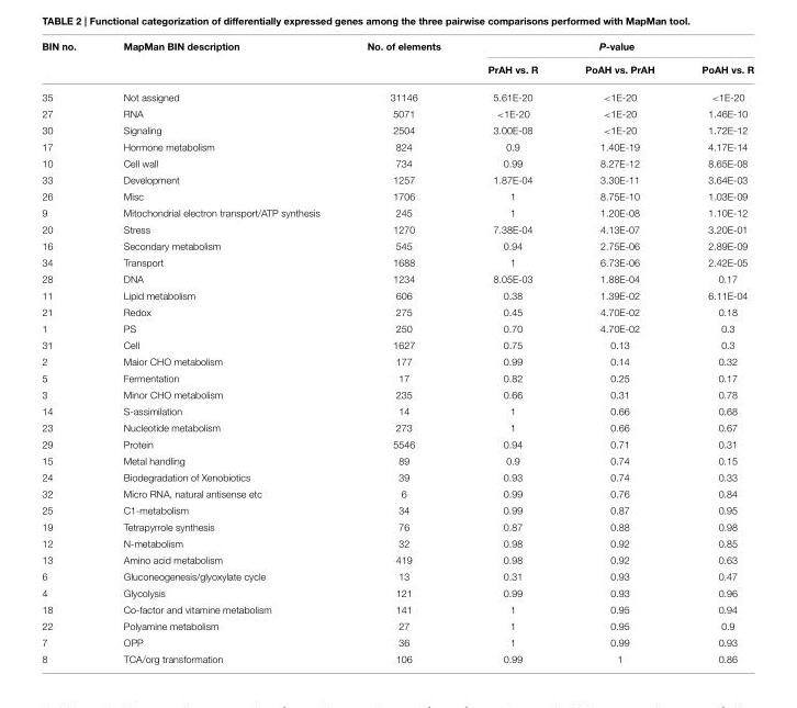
<table><thead><tr><td rowspan="2">BIN no.</td><td rowspan="2">MapMan BIN description</td><td rowspan="2">No. of elements</td><td colspan="3">P-value</td></tr><tr><td>PrAH vs. R</td><td>PoAH vs. PrAH</td><td>PoAH vs. R</td></tr></thead><tbody><tr><td>35</td><td>Not assigned</td><td>31146</td><td>5.61E-20</td><td>&lt;1E-20</td><td>&lt;1E-20</td></tr><tr><td>27</td><td>RNA</td><td>5071</td><td>&lt;1E-20</td><td>&lt;1E-20</td><td>1.46E-10</td></tr><tr><td>30</td><td>Signaling</td><td>2504</td><td>3.00E-08</td><td>&lt;1E-20</td><td>1.72E-12</td></tr><tr><td>17</td><td>Hormone metabolism</td><td>824</td><td>0.9</td><td>1.40E-19</td><td>4.17E-14</td></tr><tr><td>10</td><td>Cell wall</td><td>734</td><td>0.99</td><td>8.27E-12</td><td>8.65E-08</td></tr><tr><td>33</td><td>Development</td><td>1257</td><td>1.87E-04</td><td>3.30E-11</td><td>3.64E-03</td></tr><tr><td>26</td><td>Misc</td><td>1706</td><td>1</td><td>8.75E-10</td><td>1.03E-09</td></tr><tr><td>9</td><td>Mitochondrial electron transport/ATP synthesis</td><td>245</td><td>1</td><td>1.20E-08</td><td>1.10E-12</td></tr><tr><td>20</td><td>Stress</td><td>1270</td><td>7.38E-04</td><td>4.13E-07</td><td>3.20E-01</td></tr><tr><td>16</td><td>Secondary metabolism</td><td>545</td><td>0.94</td><td>2.75E-06</td><td>2.89E-09</td></tr><tr><td>34</td><td>Transport</td><td>1688</td><td>1</td><td>6.73E-06</td><td>2.42E-05</td></tr><tr><td>28</td><td>DNA</td><td>1234</td><td>8.05E-03</td><td>1.88E-04</td><td>0.17</td></tr><tr><td>11</td><td>Lipid metabolism</td><td>606</td><td>0.38</td><td>1.39E-02</td><td>6.11E-04</td></tr><tr><td>21</td><td>Redox</td><td>275</td><td>0.45</td><td>4.70E-02</td><td>0.18</td></tr><tr><td>1</td><td>PS</td><td>250</td><td>0.70</td><td>4.70E-02</td><td>0.3</td></tr><tr><td>31</td><td>Cell</td><td>1627</td><td>0.75</td><td>0.13</td><td>0.3</td></tr><tr><td>2</td><td>Maior CHO metabolism</td><td>177</td><td>0.99</td><td>0.14</td><td>0.32</td></tr><tr><td>5</td><td>Fermentation</td><td>17</td><td>0.82</td><td>0.25</td><td>0.17</td></tr><tr><td>3</td><td>Minor CHO metabolism</td><td>235</td><td>0.66</td><td>0.31</td><td>0.78</td></tr><tr><td>14</td><td>S-assimilation</td><td>14</td><td>1</td><td>0.66</td><td>0.68</td></tr><tr><td>23</td><td>Nucleotide metabolism</td><td>273</td><td>1</td><td>0.66</td><td>0.67</td></tr><tr><td>29</td><td>Protein</td><td>5546</td><td>0.94</td><td>0.71</td><td>0.31</td></tr><tr><td>15</td><td>Metal handling</td><td>89</td><td>0.9</td><td>0.74</td><td>0.15</td></tr><tr><td>24</td><td>Biodegradation of Xenobiotics</td><td>39</td><td>0.93</td><td>0.74</td><td>0.33</td></tr><tr><td>32</td><td>Micro RNA, natural antisense etc</td><td>6</td><td>0.99</td><td>0.76</td><td>0.84</td></tr><tr><td>25</td><td>C1-metabolism</td><td>34</td><td>0.99</td><td>0.87</td><td>0.95</td></tr><tr><td>19</td><td>Tetrapyrrole synthesis</td><td>76</td><td>0.87</td><td>0.88</td><td>0.98</td></tr><tr><td>12</td><td>N-metabolism</td><td>32</td><td>0.98</td><td>0.92</td><td>0.85</td></tr><tr><td>13</td><td>Amino acid metabolism</td><td>419</td><td>0.98</td><td>0.92</td><td>0.63</td></tr><tr><td>6</td><td>Gluconeogenesis/glyoxylate cycle</td><td>13</td><td>0.31</td><td>0.93</td><td>0.47</td></tr><tr><td>4</td><td>Glycolysis</td><td>121</td><td>0.99</td><td>0.93</td><td>0.96</td></tr><tr><td>18</td><td>Co-factor and vitamine metabolism</td><td>141</td><td>1</td><td>0.95</td><td>0.94</td></tr><tr><td>22</td><td>Polyamine metabolism</td><td>27</td><td>1</td><td>0.95</td><td>0.9</td></tr><tr><td>7</td><td>OPP</td><td>36</td><td>1</td><td>0.99</td><td>0.93</td></tr><tr><td>8</td><td>TCA/org transformation</td><td>106</td><td>0.99</td><td>1</td><td>0.86</td></tr></tbody></table>